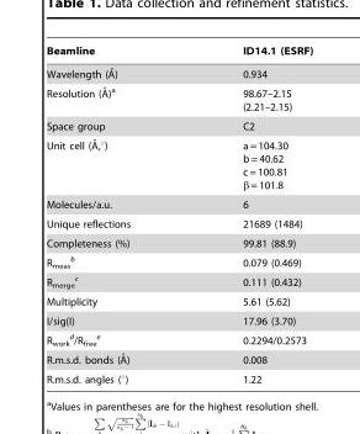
<table><thead><tr><td>Beamline</td><td>ID14.1 (ESRF)</td></tr></thead><tbody><tr><td>Wavelength (A˚)</td><td>0.934</td></tr><tr><td>Resolution (A˚)a</td><td>98.67–2.15 (2.21–2.15)</td></tr><tr><td>Space group</td><td>C2</td></tr><tr><td>Unit cell (A˚,u)</td><td>a = 104.30 b = 40.62 c = 100.81 β = 101.8</td></tr><tr><td>Molecules/a.u.</td><td>6</td></tr><tr><td>Unique reflections</td><td>21689 (1484)</td></tr><tr><td>Completeness (%)</td><td>99.81 (88.9)</td></tr><tr><td>R<sub>meas</sub> <sup>b</sup></td><td>0.079 (0.469)</td></tr><tr><td>R<sub>merge</sub> <sup>c</sup></td><td>0.111 (0.432)</td></tr><tr><td>Multiplicity</td><td>5.61 (5.62)</td></tr><tr><td>I/sig(I)</td><td>17.96 (3.70)</td></tr><tr><td>R<sub>work</sub> <sup>d</sup>/R<sub>free</sub> <sup>e</sup></td><td>0.2294/0.2573</td></tr><tr><td>R.m.s.d. bonds (A˚)</td><td>0.008</td></tr><tr><td>R.m.s.d. angles (°)</td><td>1.22</td></tr></tbody></table>